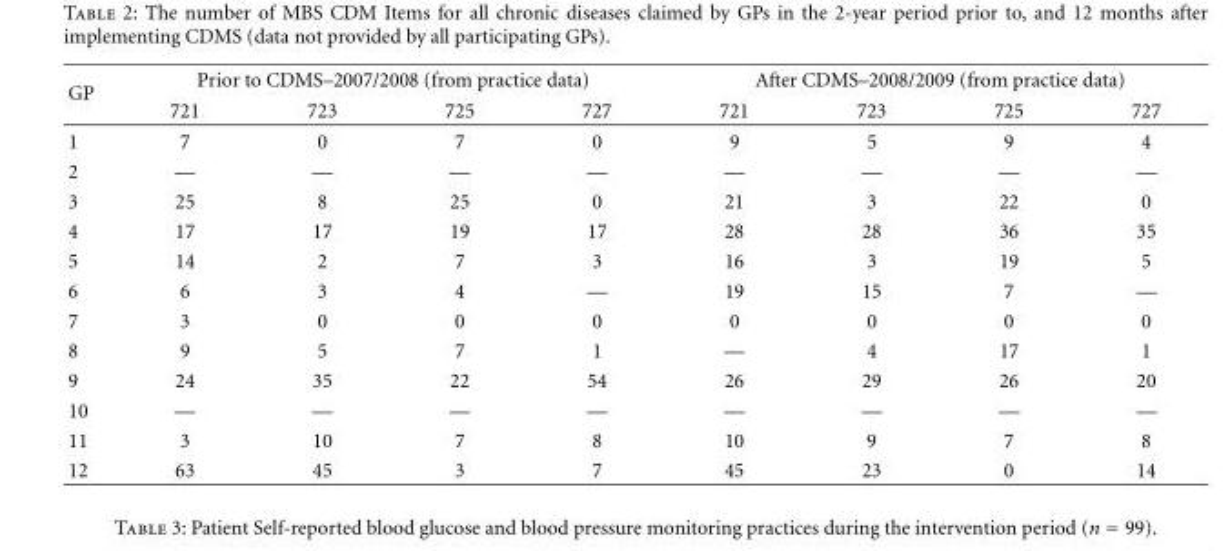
<table><thead><tr><td rowspan="2">GP</td><td colspan="4">Prior to CDMS–2007/2008 (from practice data)</td><td colspan="4">After CDMS–2008/2009 (from practice data)</td></tr><tr><td>721</td><td>723</td><td>725</td><td>727</td><td>721</td><td>723</td><td>725</td><td>727</td></tr></thead><tbody><tr><td>1</td><td>7</td><td>0</td><td>7</td><td>0</td><td>9</td><td>5</td><td>9</td><td>4</td></tr><tr><td>2</td><td>—</td><td>—</td><td>—</td><td>—</td><td>—</td><td>—</td><td>—</td><td>—</td></tr><tr><td>3</td><td>25</td><td>8</td><td>25</td><td>0</td><td>21</td><td>3</td><td>22</td><td>0</td></tr><tr><td>4</td><td>17</td><td>17</td><td>19</td><td>17</td><td>28</td><td>28</td><td>36</td><td>35</td></tr><tr><td>5</td><td>14</td><td>2</td><td>7</td><td>3</td><td>16</td><td>3</td><td>19</td><td>5</td></tr><tr><td>6</td><td>6</td><td>3</td><td>4</td><td>—</td><td>19</td><td>15</td><td>7</td><td>—</td></tr><tr><td>7</td><td>3</td><td>0</td><td>0</td><td>0</td><td>0</td><td>0</td><td>0</td><td>0</td></tr><tr><td>8</td><td>9</td><td>5</td><td>7</td><td>1</td><td>—</td><td>4</td><td>17</td><td>1</td></tr><tr><td>9</td><td>24</td><td>35</td><td>22</td><td>54</td><td>26</td><td>29</td><td>26</td><td>20</td></tr><tr><td>10</td><td>—</td><td>—</td><td>—</td><td>—</td><td>—</td><td>—</td><td>—</td><td>—</td></tr><tr><td>11</td><td>3</td><td>10</td><td>7</td><td>8</td><td>10</td><td>9</td><td>7</td><td>8</td></tr><tr><td>12</td><td>63</td><td>45</td><td>3</td><td>7</td><td>45</td><td>23</td><td>0</td><td>14</td></tr></tbody></table>